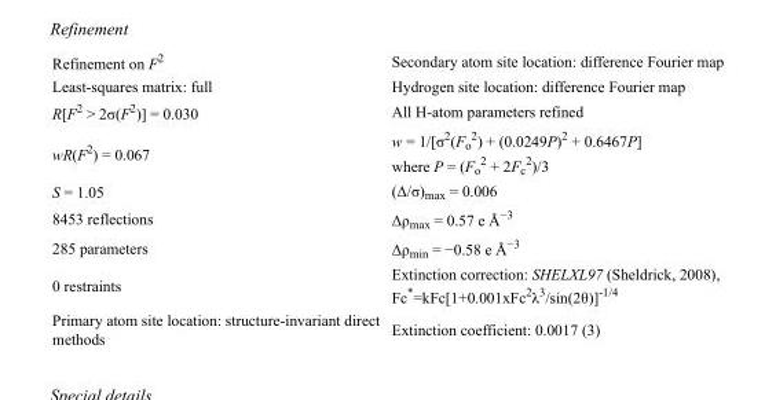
<table><tbody><tr><td>Refinement on F<sup>2</sup></td><td>Secondary atom site location: difference Fourier map</td></tr><tr><td>Least-squares matrix: full</td><td>Hydrogen site location: difference Fourier map</td></tr><tr><td>R[F<sup>2</sup> &gt; 2σ(F<sup>2</sup>)] = 0.030</td><td>All H-atom parameters refined</td></tr><tr><td>wR(F<sup>2</sup>) = 0.067</td><td>w = 1/[σ<sup>2</sup>(F<sub>o</sub> <sup>2</sup>) + (0.0249P)<sup>2</sup> + 0.6467P] where P = (F<sub>o</sub> <sup>2</sup> + 2F<sub>c</sub> <sup>2</sup>)/3</td></tr><tr><td>S = 1.05</td><td>(Δ/σ)<sub>max</sub> = 0.006</td></tr><tr><td>8453 reflections</td><td>Δρ<sub>max</sub> = 0.57 e Å<sup>−3</sup></td></tr><tr><td>285 parameters</td><td>Δρ<sub>min</sub> = −0.58 e Å<sup>−3</sup></td></tr><tr><td>0 restraints</td><td>Extinction correction: SHELXL97 (Sheldrick, 2008), Fc*=kFc[1+0.001xFc<sup>2</sup>λ<sup>3</sup>/sin(2θ)]<sup>-1/4</sup></td></tr><tr><td>Primary atom site location: structure-invariant direct methods</td><td>Extinction coefficient: 0.0017 (3)</td></tr></tbody></table>